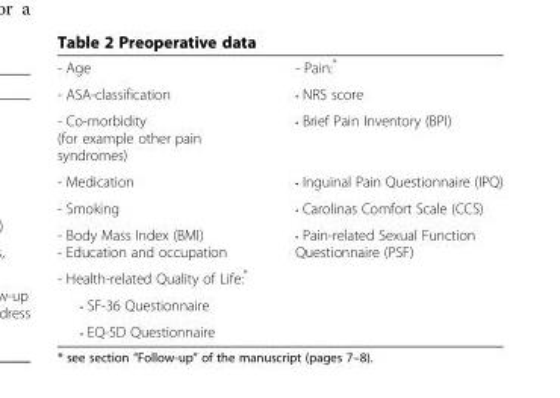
<table><tbody><tr><td>- Age</td><td>- Pain:*</td></tr><tr><td>- ASA-classification</td><td>• NRS score</td></tr><tr><td>- Co-morbidity (for example other pain syndromes)</td><td>• Brief Pain Inventory (BPI)</td></tr><tr><td>- Medication</td><td>• Inguinal Pain Questionnaire (IPQ)</td></tr><tr><td>- Smoking</td><td>• Carolinas Comfort Scale (CCS)</td></tr><tr><td>- Body Mass Index (BMI) - Education and occupation</td><td>• Pain-related Sexual Function Questionnaire (PSF)</td></tr><tr><td colspan="2">- Health-related Quality of Life:*</td></tr><tr><td colspan="2">• SF-36 Questionnaire</td></tr><tr><td>• EQ-5D Questionnaire</td><td></td></tr></tbody></table>